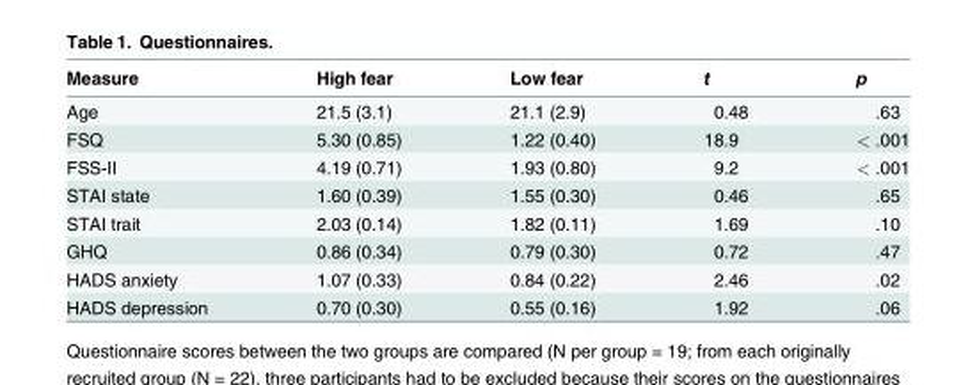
<table><thead><tr><td>Measure</td><td>High fear</td><td>Low fear</td><td>t</td><td>p</td></tr></thead><tbody><tr><td>Age</td><td>21.5 (3.1)</td><td>21.1 (2.9)</td><td>0.48</td><td>.63</td></tr><tr><td>FSQ</td><td>5.30 (0.85)</td><td>1.22 (0.40)</td><td>18.9</td><td>&lt; .001</td></tr><tr><td>FSS-II</td><td>4.19 (0.71)</td><td>1.93 (0.80)</td><td>9.2</td><td>&lt; .001</td></tr><tr><td>STAI state</td><td>1.60 (0.39)</td><td>1.55 (0.30)</td><td>0.46</td><td>.65</td></tr><tr><td>STAI trait</td><td>2.03 (0.14)</td><td>1.82 (0.11)</td><td>1.69</td><td>.10</td></tr><tr><td>GHQ</td><td>0.86 (0.34)</td><td>0.79 (0.30)</td><td>0.72</td><td>.47</td></tr><tr><td>HADS anxiety</td><td>1.07 (0.33)</td><td>0.84 (0.22)</td><td>2.46</td><td>.02</td></tr><tr><td>HADS depression</td><td>0.70 (0.30)</td><td>0.55 (0.16)</td><td>1.92</td><td>.06</td></tr></tbody></table>